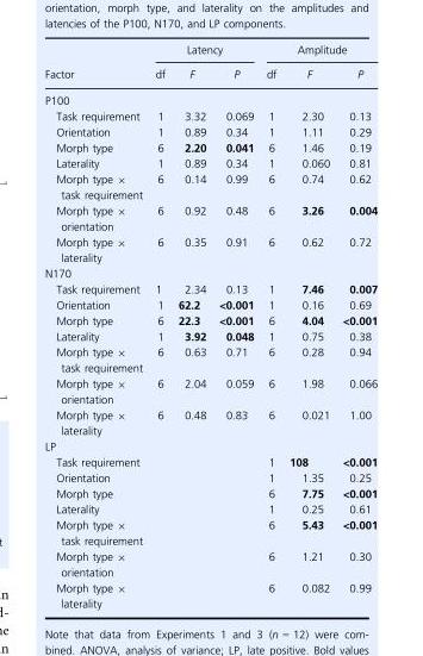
<table><thead><tr><td rowspan="2">Factor</td><td colspan="3">Latency</td><td colspan="3">Amplitude</td></tr><tr><td>df</td><td>F</td><td>P</td><td>df</td><td>F</td><td>P</td></tr></thead><tbody><tr><td colspan="7">P100</td></tr><tr><td>Task requirement</td><td>1</td><td>3.32</td><td>0.069</td><td>1</td><td>2.30</td><td>0.13</td></tr><tr><td>Orientation</td><td>1</td><td>0.89</td><td>0.34</td><td>1</td><td>1.11</td><td>0.29</td></tr><tr><td>Morph type</td><td>6</td><td>2.20</td><td>0.041</td><td>6</td><td>1.46</td><td>0.19</td></tr><tr><td>Laterality</td><td>1</td><td>0.89</td><td>0.34</td><td>1</td><td>0.060</td><td>0.81</td></tr><tr><td>Morph type × task requirement</td><td>6</td><td>0.14</td><td>0.99</td><td>6</td><td>0.74</td><td>0.62</td></tr><tr><td>Morph type × orientation</td><td>6</td><td>0.92</td><td>0.48</td><td>6</td><td>3.26</td><td>0.004</td></tr><tr><td>Morph type × laterality</td><td>6</td><td>0.35</td><td>0.91</td><td>6</td><td>0.62</td><td>0.72</td></tr><tr><td colspan="7">N170</td></tr><tr><td>Task requirement</td><td>1</td><td>2.34</td><td>0.13</td><td>1</td><td>7.46</td><td>0.007</td></tr><tr><td>Orientation</td><td>1</td><td>62.2</td><td>&lt;0.001</td><td>1</td><td>0.16</td><td>0.69</td></tr><tr><td>Morph type</td><td>6</td><td>22.3</td><td>&lt;0.001</td><td>6</td><td>4.04</td><td>&lt;0.001</td></tr><tr><td>Laterality</td><td>1</td><td>3.92</td><td>0.048</td><td>1</td><td>0.75</td><td>0.38</td></tr><tr><td>Morph type × task requirement</td><td>6</td><td>0.63</td><td>0.71</td><td>6</td><td>0.28</td><td>0.94</td></tr><tr><td>Morph type × orientation</td><td>6</td><td>2.04</td><td>0.059</td><td>6</td><td>1.98</td><td>0.066</td></tr><tr><td>Morph type × laterality</td><td>6</td><td>0.48</td><td>0.83</td><td>6</td><td>0.021</td><td>1.00</td></tr><tr><td colspan="7">LP</td></tr><tr><td>Task requirement</td><td></td><td></td><td></td><td>1</td><td>108</td><td>&lt;0.001</td></tr><tr><td>Orientation</td><td></td><td></td><td></td><td>1</td><td>1.35</td><td>0.25</td></tr><tr><td>Morph type</td><td></td><td></td><td></td><td>6</td><td>7.75</td><td>&lt;0.001</td></tr><tr><td>Laterality</td><td></td><td></td><td></td><td>1</td><td>0.25</td><td>0.61</td></tr><tr><td>Morph type × task requirement</td><td></td><td></td><td></td><td>6</td><td>5.43</td><td>&lt;0.001</td></tr><tr><td>Morph type × orientation</td><td></td><td></td><td></td><td>6</td><td>1.21</td><td>0.30</td></tr><tr><td>Morph type × laterality</td><td></td><td></td><td></td><td>6</td><td>0.082</td><td>0.99</td></tr></tbody></table>